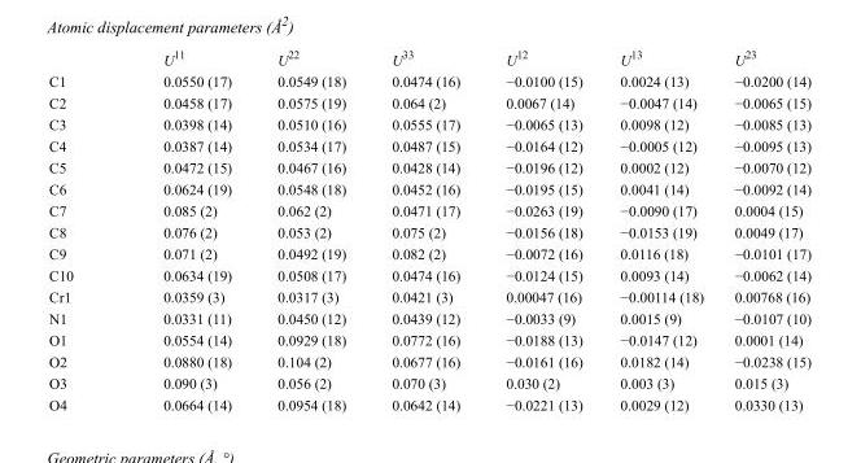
<table><thead><tr><td></td><td>U<sup>11</sup></td><td>U<sup>22</sup></td><td>U<sup>33</sup></td><td>U<sup>12</sup></td><td>U<sup>13</sup></td><td>U<sup>23</sup></td></tr></thead><tbody><tr><td>C1</td><td>0.0550 (17)</td><td>0.0549 (18)</td><td>0.0474 (16)</td><td>−0.0100 (15)</td><td>0.0024 (13)</td><td>−0.0200 (14)</td></tr><tr><td>C2</td><td>0.0458 (17)</td><td>0.0575 (19)</td><td>0.064 (2)</td><td>0.0067 (14)</td><td>−0.0047 (14)</td><td>−0.0065 (15)</td></tr><tr><td>C3</td><td>0.0398 (14)</td><td>0.0510 (16)</td><td>0.0555 (17)</td><td>−0.0065 (13)</td><td>0.0098 (12)</td><td>−0.0085 (13)</td></tr><tr><td>C4</td><td>0.0387 (14)</td><td>0.0534 (17)</td><td>0.0487 (15)</td><td>−0.0164 (12)</td><td>−0.0005 (12)</td><td>−0.0095 (13)</td></tr><tr><td>C5</td><td>0.0472 (15)</td><td>0.0467 (16)</td><td>0.0428 (14)</td><td>−0.0196 (12)</td><td>0.0002 (12)</td><td>−0.0070 (12)</td></tr><tr><td>C6</td><td>0.0624 (19)</td><td>0.0548 (18)</td><td>0.0452 (16)</td><td>−0.0195 (15)</td><td>0.0041 (14)</td><td>−0.0092 (14)</td></tr><tr><td>C7</td><td>0.085 (2)</td><td>0.062 (2)</td><td>0.0471 (17)</td><td>−0.0263 (19)</td><td>−0.0090 (17)</td><td>0.0004 (15)</td></tr><tr><td>C8</td><td>0.076 (2)</td><td>0.053 (2)</td><td>0.075 (2)</td><td>−0.0156 (18)</td><td>−0.0153 (19)</td><td>0.0049 (17)</td></tr><tr><td>C9</td><td>0.071 (2)</td><td>0.0492 (19)</td><td>0.082 (2)</td><td>−0.0072 (16)</td><td>0.0116 (18)</td><td>−0.0101 (17)</td></tr><tr><td>C10</td><td>0.0634 (19)</td><td>0.0508 (17)</td><td>0.0474 (16)</td><td>−0.0124 (15)</td><td>0.0093 (14)</td><td>−0.0062 (14)</td></tr><tr><td>Cr1</td><td>0.0359 (3)</td><td>0.0317 (3)</td><td>0.0421 (3)</td><td>0.00047 (16)</td><td>−0.00114 (18)</td><td>0.00768 (16)</td></tr><tr><td>N1</td><td>0.0331 (11)</td><td>0.0450 (12)</td><td>0.0439 (12)</td><td>−0.0033 (9)</td><td>0.0015 (9)</td><td>−0.0107 (10)</td></tr><tr><td>O1</td><td>0.0554 (14)</td><td>0.0929 (18)</td><td>0.0772 (16)</td><td>−0.0188 (13)</td><td>−0.0147 (12)</td><td>0.0001 (14)</td></tr><tr><td>O2</td><td>0.0880 (18)</td><td>0.104 (2)</td><td>0.0677 (16)</td><td>−0.0161 (16)</td><td>0.0182 (14)</td><td>−0.0238 (15)</td></tr><tr><td>O3</td><td>0.090 (3)</td><td>0.056 (2)</td><td>0.070 (3)</td><td>0.030 (2)</td><td>0.003 (3)</td><td>0.015 (3)</td></tr><tr><td>O4</td><td>0.0664 (14)</td><td>0.0954 (18)</td><td>0.0642 (14)</td><td>−0.0221 (13)</td><td>0.0029 (12)</td><td>0.0330 (13)</td></tr></tbody></table>